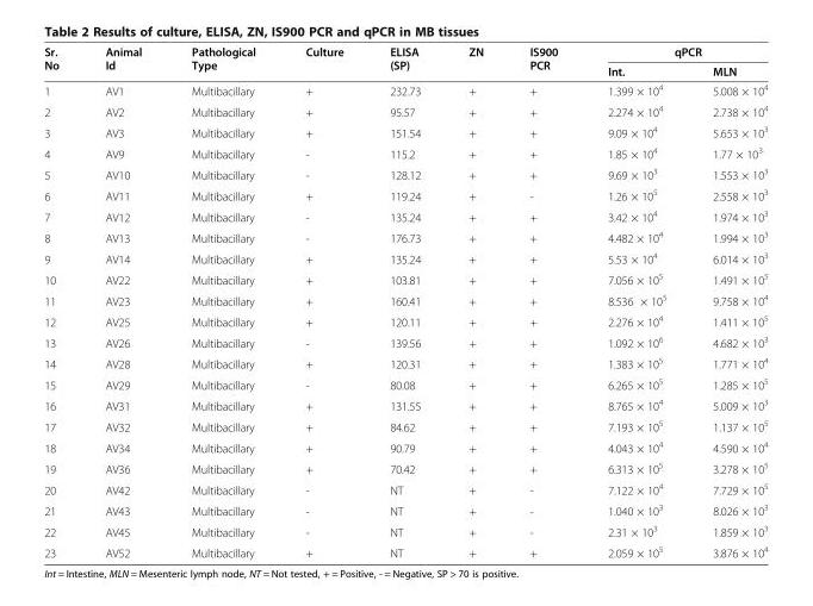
<table><thead><tr><td rowspan="2">Sr. No</td><td rowspan="2">Animal Id</td><td rowspan="2">Pathological Type</td><td rowspan="2">Culture</td><td rowspan="2">ELISA (SP)</td><td rowspan="2">ZN</td><td rowspan="2">IS900 PCR</td><td colspan="2">qPCR</td></tr><tr><td>Int.</td><td>MLN</td></tr></thead><tbody><tr><td>1</td><td>AV1</td><td>Multibacillary</td><td>+</td><td>232.73</td><td>+</td><td>+</td><td>1.399 × 10<sup>4</sup></td><td>5.008 × 10<sup>4</sup></td></tr><tr><td>2</td><td>AV2</td><td>Multibacillary</td><td>+</td><td>95.57</td><td>+</td><td>+</td><td>2.274 × 10<sup>4</sup></td><td>2.738 × 10<sup>4</sup></td></tr><tr><td>3</td><td>AV3</td><td>Multibacillary</td><td>+</td><td>151.54</td><td>+</td><td>+</td><td>9.09 × 10<sup>4</sup></td><td>5.653 × 10<sup>3</sup></td></tr><tr><td>4</td><td>AV9</td><td>Multibacillary</td><td>-</td><td>115.2</td><td>+</td><td>+</td><td>1.85 × 10<sup>4</sup></td><td>1.77 × 10<sup>3</sup></td></tr><tr><td>5</td><td>AV10</td><td>Multibacillary</td><td>-</td><td>128.12</td><td>+</td><td>+</td><td>9.69 × 10<sup>3</sup></td><td>1.553 × 10<sup>3</sup></td></tr><tr><td>6</td><td>AV11</td><td>Multibacillary</td><td>+</td><td>119.24</td><td>+</td><td>-</td><td>1.26 × 10<sup>5</sup></td><td>2.558 × 10<sup>3</sup></td></tr><tr><td>7</td><td>AV12</td><td>Multibacillary</td><td>-</td><td>135.24</td><td>+</td><td>+</td><td>3.42 × 10<sup>4</sup></td><td>1.974 × 10<sup>3</sup></td></tr><tr><td>8</td><td>AV13</td><td>Multibacillary</td><td>-</td><td>176.73</td><td>+</td><td>+</td><td>4.482 × 10<sup>4</sup></td><td>1.994 × 10<sup>3</sup></td></tr><tr><td>9</td><td>AV14</td><td>Multibacillary</td><td>+</td><td>135.24</td><td>+</td><td>+</td><td>5.53 × 10<sup>4</sup></td><td>6.014 × 10<sup>3</sup></td></tr><tr><td>10</td><td>AV22</td><td>Multibacillary</td><td>+</td><td>103.81</td><td>+</td><td>+</td><td>7.056 × 10<sup>5</sup></td><td>1.491 × 10<sup>5</sup></td></tr><tr><td>11</td><td>AV23</td><td>Multibacillary</td><td>+</td><td>160.41</td><td>+</td><td>+</td><td>8.536 × 10<sup>5</sup></td><td>9.758 × 10<sup>4</sup></td></tr><tr><td>12</td><td>AV25</td><td>Multibacillary</td><td>+</td><td>120.11</td><td>+</td><td>+</td><td>2.276 × 10<sup>4</sup></td><td>1.411 × 10<sup>5</sup></td></tr><tr><td>13</td><td>AV26</td><td>Multibacillary</td><td>-</td><td>139.56</td><td>+</td><td>+</td><td>1.092 × 10<sup>6</sup></td><td>4.682 × 10<sup>3</sup></td></tr><tr><td>14</td><td>AV28</td><td>Multibacillary</td><td>+</td><td>120.31</td><td>+</td><td>+</td><td>1.383 × 10<sup>5</sup></td><td>1.771 × 10<sup>4</sup></td></tr><tr><td>15</td><td>AV29</td><td>Multibacillary</td><td>-</td><td>80.08</td><td>+</td><td>+</td><td>6.265 × 10<sup>5</sup></td><td>1.285 × 10<sup>5</sup></td></tr><tr><td>16</td><td>AV31</td><td>Multibacillary</td><td>+</td><td>131.55</td><td>+</td><td>+</td><td>8.765 × 10<sup>4</sup></td><td>5.009 × 10<sup>3</sup></td></tr><tr><td>17</td><td>AV32</td><td>Multibacillary</td><td>+</td><td>84.62</td><td>+</td><td>+</td><td>7.193 × 10<sup>5</sup></td><td>1.137 × 10<sup>5</sup></td></tr><tr><td>18</td><td>AV34</td><td>Multibacillary</td><td>+</td><td>90.79</td><td>+</td><td>+</td><td>4.043 × 10<sup>4</sup></td><td>4.590 × 10<sup>4</sup></td></tr><tr><td>19</td><td>AV36</td><td>Multibacillary</td><td>+</td><td>70.42</td><td>+</td><td>+</td><td>6.313 × 10<sup>5</sup></td><td>3.278 × 10<sup>5</sup></td></tr><tr><td>20</td><td>AV42</td><td>Multibacillary</td><td>-</td><td>NT</td><td>+</td><td>-</td><td>7.122 × 10<sup>4</sup></td><td>7.729 × 10<sup>5</sup></td></tr><tr><td>21</td><td>AV43</td><td>Multibacillary</td><td>-</td><td>NT</td><td>+</td><td>-</td><td>1.040 × 10<sup>3</sup></td><td>8.026 × 10<sup>3</sup></td></tr><tr><td>22</td><td>AV45</td><td>Multibacillary</td><td>-</td><td>NT</td><td>+</td><td>-</td><td>2.31 × 10<sup>3</sup></td><td>1.859 × 10<sup>3</sup></td></tr><tr><td>23</td><td>AV52</td><td>Multibacillary</td><td>+</td><td>NT</td><td>+</td><td>+</td><td>2.059 × 10<sup>5</sup></td><td>3.876 × 10<sup>4</sup></td></tr></tbody></table>